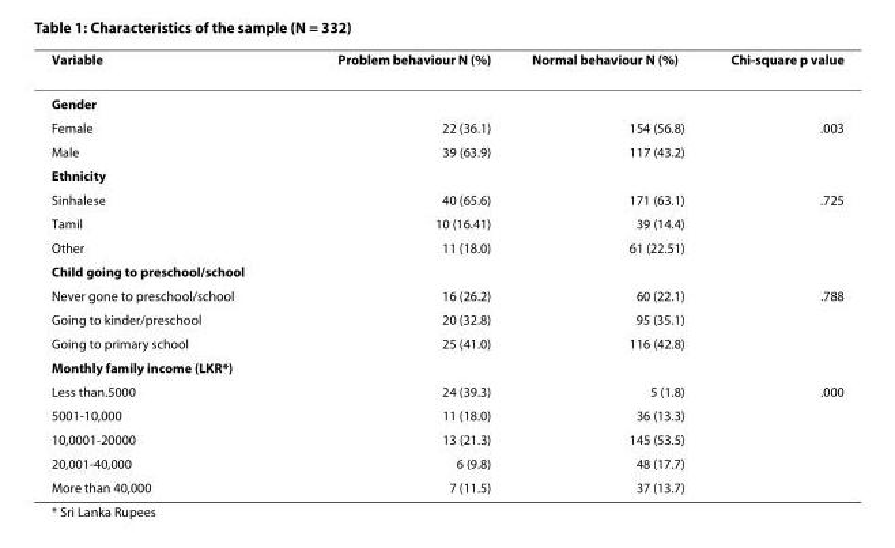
<table><thead><tr><td>Variable</td><td>Problem behaviour N (%)</td><td>Normal behaviour N (%)</td><td>Chi-square p value</td></tr></thead><tbody><tr><td colspan="4">Gender</td></tr><tr><td>Female</td><td>22 (36.1)</td><td>154 (56.8)</td><td>.003</td></tr><tr><td>Male</td><td>39 (63.9)</td><td>117 (43.2)</td><td></td></tr><tr><td colspan="4">Ethnicity</td></tr><tr><td>Sinhalese</td><td>40 (65.6)</td><td>171 (63.1)</td><td>.725</td></tr><tr><td>Tamil</td><td>10 (16.41)</td><td>39 (14.4)</td><td></td></tr><tr><td>Other</td><td>11 (18.0)</td><td>61 (22.51)</td><td></td></tr><tr><td colspan="4">Child going to preschool/school</td></tr><tr><td>Never gone to preschool/school</td><td>16 (26.2)</td><td>60 (22.1)</td><td>.788</td></tr><tr><td>Going to kinder/preschool</td><td>20 (32.8)</td><td>95 (35.1)</td><td></td></tr><tr><td>Going to primary school</td><td>25 (41.0)</td><td>116 (42.8)</td><td></td></tr><tr><td colspan="4">Monthly family income (LKR*)</td></tr><tr><td>Less than.5000</td><td>24 (39.3)</td><td>5 (1.8)</td><td>.000</td></tr><tr><td>5001-10,000</td><td>11 (18.0)</td><td>36 (13.3)</td><td></td></tr><tr><td>10,0001-20000</td><td>13 (21.3)</td><td>145 (53.5)</td><td></td></tr><tr><td>20,001-40,000</td><td>6 (9.8)</td><td>48 (17.7)</td><td></td></tr><tr><td>More than 40,000</td><td>7 (11.5)</td><td>37 (13.7)</td><td></td></tr></tbody></table>